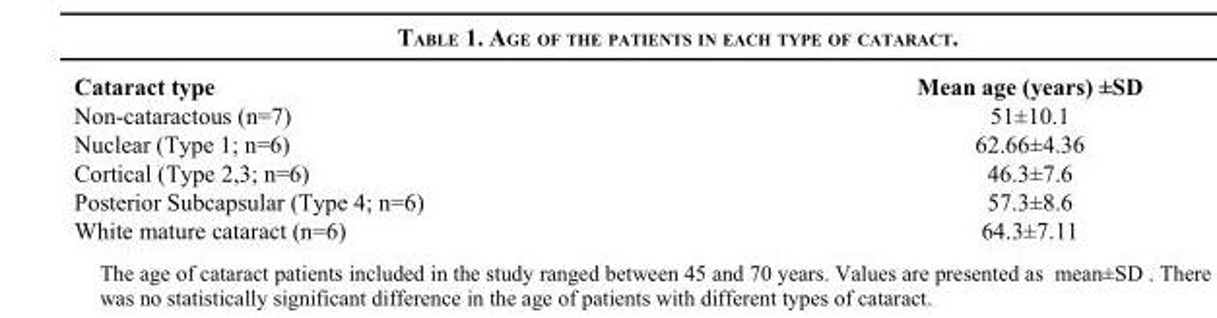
<table><thead><tr><td>Cataract type</td><td>Mean age (years) ±SD</td></tr></thead><tbody><tr><td>Non-cataractous (n=7)</td><td>51±10.1</td></tr><tr><td>Nuclear (Type 1; n=6)</td><td>62.66±4.36</td></tr><tr><td>Cortical (Type 2,3; n=6)</td><td>46.3±7.6</td></tr><tr><td>Posterior Subcapsular (Type 4; n=6)</td><td>57.3±8.6</td></tr><tr><td>White mature cataract (n=6)</td><td>64.3±7.11</td></tr></tbody></table>